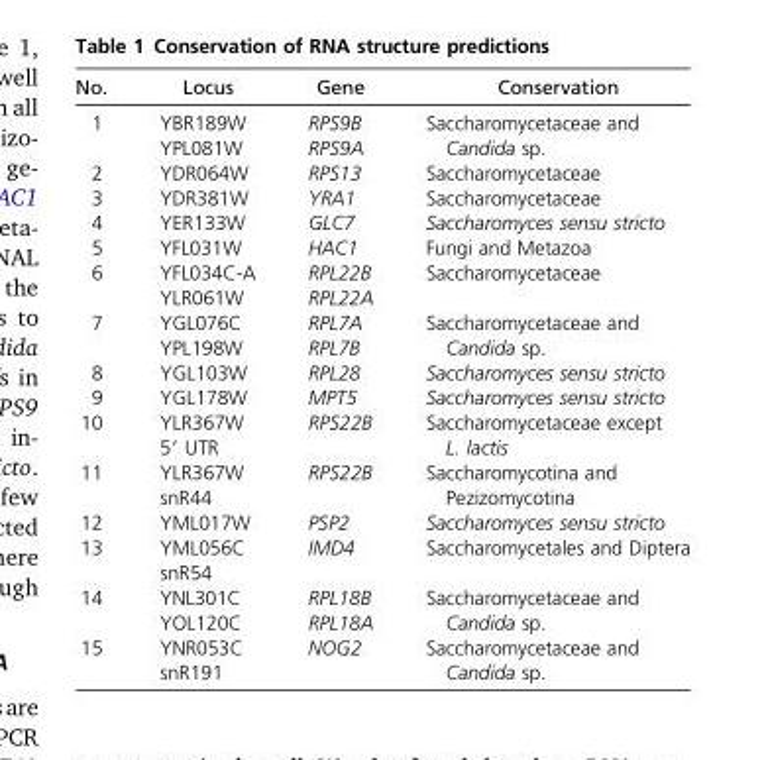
<table><thead><tr><td>No.</td><td>Locus</td><td>Gene</td><td>Conservation</td></tr></thead><tbody><tr><td rowspan="2">1</td><td>YBR189W</td><td>RPS9B</td><td rowspan="2">Saccharomycetaceae and Candida sp.</td></tr><tr><td>YPL081W</td><td>RPS9A</td></tr><tr><td>2</td><td>YDR064W</td><td>RPS13</td><td>Saccharomycetaceae</td></tr><tr><td>3</td><td>YDR381W</td><td>YRA1</td><td>Saccharomycetaceae</td></tr><tr><td>4</td><td>YER133W</td><td>GLC7</td><td>Saccharomyces sensu stricto</td></tr><tr><td>5</td><td>YFL031W</td><td>HAC1</td><td>Fungi and Metazoa</td></tr><tr><td rowspan="2">6</td><td>YFL034C-A</td><td>RPL22B</td><td rowspan="2">Saccharomycetaceae</td></tr><tr><td>YLR061W</td><td>RPL22A</td></tr><tr><td rowspan="2">7</td><td>YGL076C</td><td>RPL7A</td><td rowspan="2">Saccharomycetaceae and Candida sp.</td></tr><tr><td>YPL198W</td><td>RPL7B</td></tr><tr><td>8</td><td>YGL103W</td><td>RPL28</td><td>Saccharomyces sensu stricto</td></tr><tr><td>9</td><td>YGL178W</td><td>MPT5</td><td>Saccharomyces sensu stricto</td></tr><tr><td rowspan="2">10</td><td>YLR367W</td><td rowspan="2">RPS22B</td><td rowspan="2">Saccharomycetaceae except L. lactis</td></tr><tr><td>5′ UTR</td></tr><tr><td rowspan="2">11</td><td>YLR367W</td><td rowspan="2">RPS22B</td><td rowspan="2">Saccharomycotina and Pezizomycotina</td></tr><tr><td>snR44</td></tr><tr><td>12</td><td>YML017W</td><td>PSP2</td><td>Saccharomyces sensu stricto</td></tr><tr><td rowspan="2">13</td><td>YML056C</td><td rowspan="2">IMD4</td><td rowspan="2">Saccharomycetales and Diptera</td></tr><tr><td>snR54</td></tr><tr><td rowspan="2">14</td><td>YNL301C</td><td>RPL18B</td><td rowspan="2">Saccharomycetaceae and Candida sp.</td></tr><tr><td>YOL120C</td><td>RPL18A</td></tr><tr><td rowspan="2">15</td><td>YNR053C</td><td rowspan="2">NOG2</td><td rowspan="2">Saccharomycetaceae and Candida sp.</td></tr><tr><td>snR191</td></tr></tbody></table>